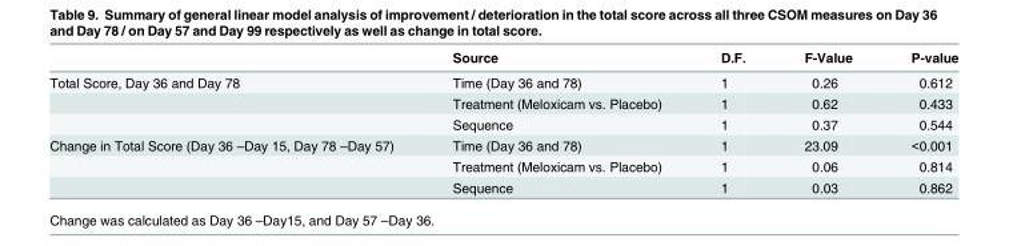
<table><thead><tr><td></td><td>Source</td><td>D.F.</td><td>F-Value</td><td>P-value</td></tr></thead><tbody><tr><td rowspan="3">Total Score, Day 36 and Day 78</td><td>Time (Day 36 and 78)</td><td>1</td><td>0.26</td><td>0.612</td></tr><tr><td>Treatment (Meloxicam vs. Placebo)</td><td>1</td><td>0.62</td><td>0.433</td></tr><tr><td>Sequence</td><td>1</td><td>0.37</td><td>0.544</td></tr><tr><td rowspan="3">Change in Total Score (Day 36 –Day 15, Day 78 –Day 57)</td><td>Time (Day 36 and 78)</td><td>1</td><td>23.09</td><td>&lt;0.001</td></tr><tr><td>Treatment (Meloxicam vs. Placebo)</td><td>1</td><td>0.06</td><td>0.814</td></tr><tr><td>Sequence</td><td>1</td><td>0.03</td><td>0.862</td></tr></tbody></table>